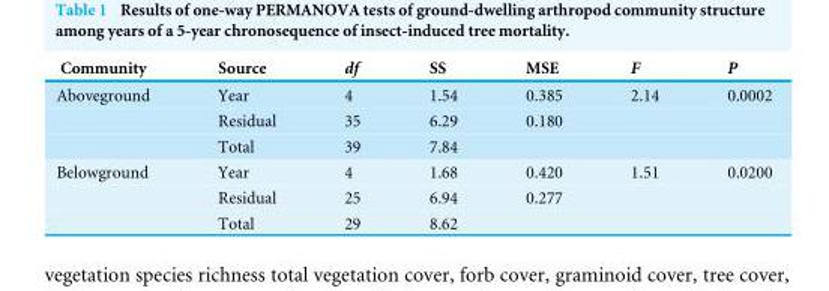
<table><thead><tr><td>Community</td><td>Source</td><td>df</td><td>SS</td><td>MSE</td><td>F</td><td>P</td></tr></thead><tbody><tr><td rowspan="3">Aboveground</td><td>Year</td><td>4</td><td>1.54</td><td>0.385</td><td>2.14</td><td>0.0002</td></tr><tr><td>Residual</td><td>35</td><td>6.29</td><td>0.180</td><td></td><td></td></tr><tr><td>Total</td><td>39</td><td>7.84</td><td></td><td></td><td></td></tr><tr><td rowspan="3">Belowground</td><td>Year</td><td>4</td><td>1.68</td><td>0.420</td><td>1.51</td><td>0.0200</td></tr><tr><td>Residual</td><td>25</td><td>6.94</td><td>0.277</td><td></td><td></td></tr><tr><td>Total</td><td>29</td><td>8.62</td><td></td><td></td><td></td></tr></tbody></table>